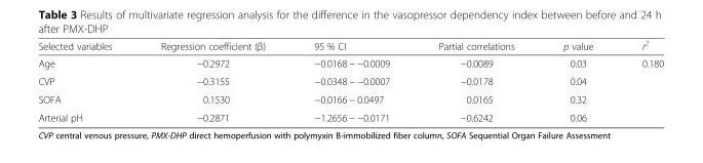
<table><thead><tr><td>Selected variables</td><td>Regression coefficient (β)</td><td>95 % CI</td><td>Partial correlations</td><td>p value</td><td>r<sup>2</sup></td></tr></thead><tbody><tr><td>Age</td><td>−0.2972</td><td>−0.0168 − −0.0009</td><td>−0.0089</td><td>0.03</td><td>0.180</td></tr><tr><td>CVP</td><td>−0.3155</td><td>−0.0348 − −0.0007</td><td>−0.0178</td><td>0.04</td><td></td></tr><tr><td>SOFA</td><td>0.1530</td><td>−0.0166 − 0.0497</td><td>0.0165</td><td>0.32</td><td></td></tr><tr><td>Arterial pH</td><td>−0.2871</td><td>−1.2656 − −0.0171</td><td>−0.6242</td><td>0.06</td><td></td></tr></tbody></table>